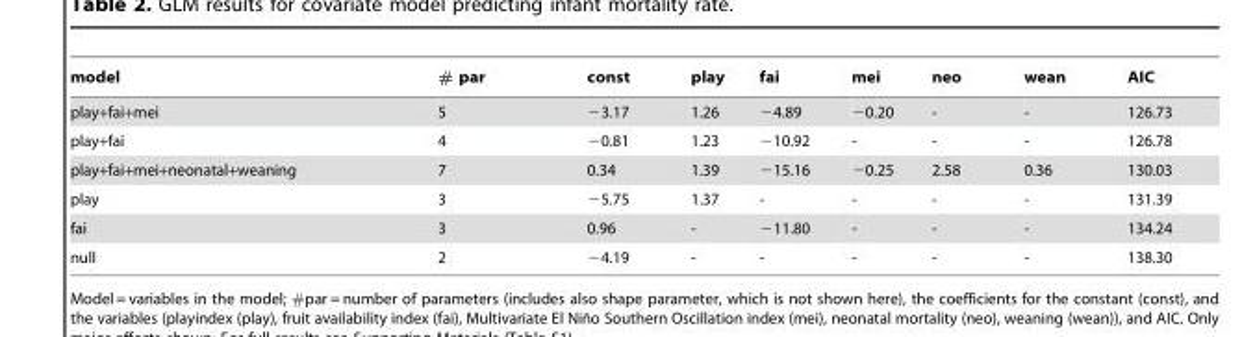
<table><thead><tr><td>model</td><td># par</td><td>const</td><td>play</td><td>fai</td><td>mei</td><td>neo</td><td>wean</td><td>AIC</td></tr></thead><tbody><tr><td>play+fai+mei</td><td>5</td><td>−3.17</td><td>1.26</td><td>−4.89</td><td>−0.20</td><td>-</td><td>-</td><td>126.73</td></tr><tr><td>play+fai</td><td>4</td><td>−0.81</td><td>1.23</td><td>−10.92</td><td>-</td><td>-</td><td>-</td><td>126.78</td></tr><tr><td>play+fai+mei+neonatal+weaning</td><td>7</td><td>0.34</td><td>1.39</td><td>−15.16</td><td>−0.25</td><td>2.58</td><td>0.36</td><td>130.03</td></tr><tr><td>play</td><td>3</td><td>−5.75</td><td>1.37</td><td>-</td><td>-</td><td>-</td><td>-</td><td>131.39</td></tr><tr><td>fai</td><td>3</td><td>0.96</td><td>-</td><td>−11.80</td><td>-</td><td>-</td><td>-</td><td>134.24</td></tr><tr><td>null</td><td>2</td><td>−4.19</td><td>-</td><td>-</td><td>-</td><td>-</td><td>-</td><td>138.30</td></tr></tbody></table>